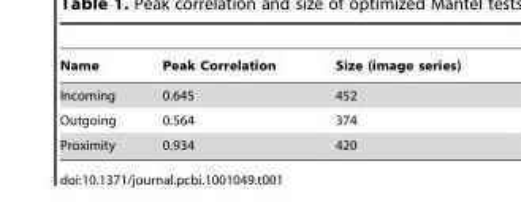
<table><thead><tr><td>Name</td><td>Peak Correlation</td><td>Size (image series)</td></tr></thead><tbody><tr><td>Incoming</td><td>0.645</td><td>452</td></tr><tr><td>Outgoing</td><td>0.564</td><td>374</td></tr><tr><td>Proximity</td><td>0.934</td><td>420</td></tr></tbody></table>